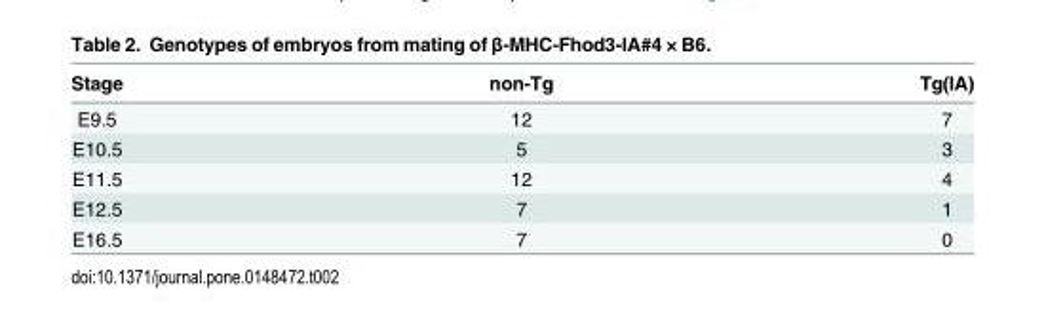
<table><thead><tr><td>Stage</td><td>non-Tg</td><td>Tg(IA)</td></tr></thead><tbody><tr><td>E9.5</td><td>12</td><td>7</td></tr><tr><td>E10.5</td><td>5</td><td>3</td></tr><tr><td>E11.5</td><td>12</td><td>4</td></tr><tr><td>E12.5</td><td>7</td><td>1</td></tr><tr><td>E16.5</td><td>7</td><td>0</td></tr></tbody></table>